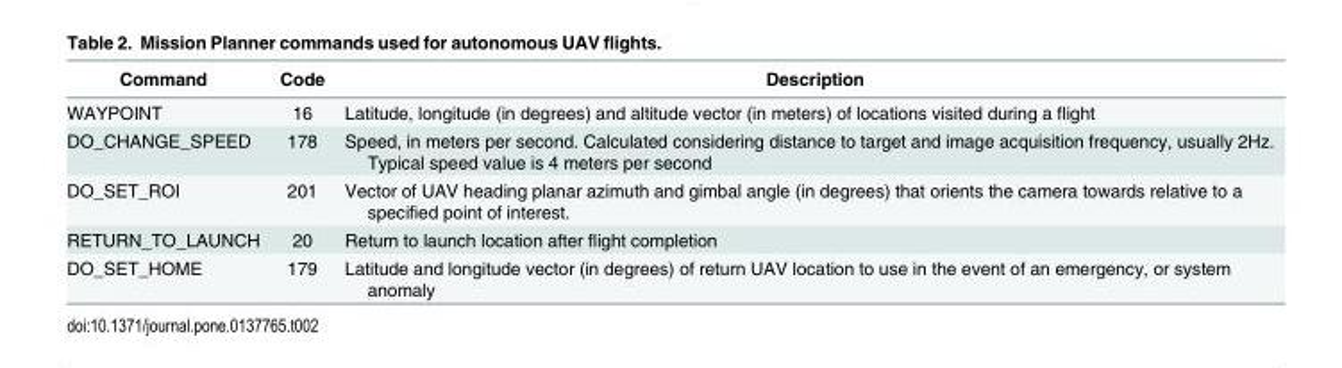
<table><thead><tr><td>Command</td><td>Code</td><td>Description</td></tr></thead><tbody><tr><td>WAYPOINT</td><td>16</td><td>Latitude, longitude (in degrees) and altitude vector (in meters) of locations visited during a flight</td></tr><tr><td>DO_CHANGE_SPEED</td><td>178</td><td>Speed, in meters per second. Calculated considering distance to target and image acquisition frequency, usually 2Hz. Typical speed value is 4 meters per second</td></tr><tr><td>DO_SET_ROI</td><td>201</td><td>Vector of UAV heading planar azimuth and gimbal angle (in degrees) that orients the camera towards relative to a specified point of interest.</td></tr><tr><td>RETURN_TO_LAUNCH</td><td>20</td><td>Return to launch location after flight completion</td></tr><tr><td>DO_SET_HOME</td><td>179</td><td>Latitude and longitude vector (in degrees) of return UAV location to use in the event of an emergency, or system anomaly</td></tr></tbody></table>